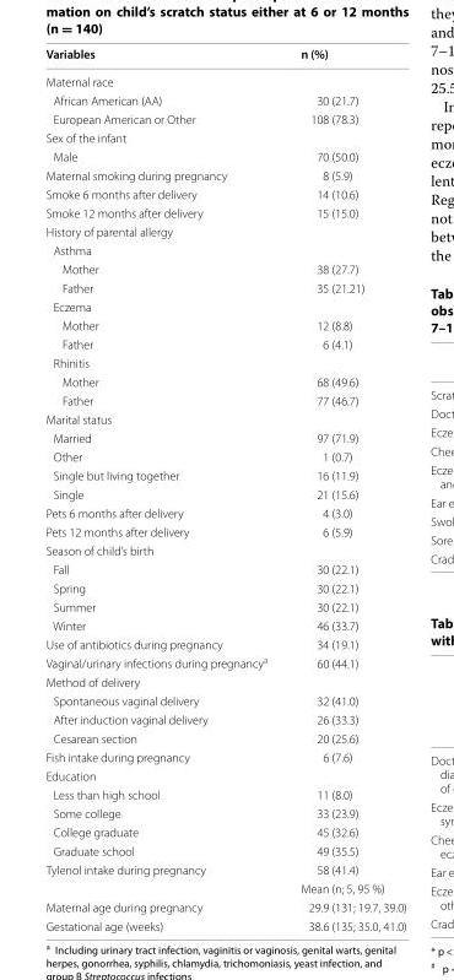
<table><thead><tr><td>Variables</td><td>n (%)</td></tr></thead><tbody><tr><td colspan="2">Maternal race</td></tr><tr><td>African American (AA)</td><td>30 (21.7)</td></tr><tr><td>European American or Other</td><td>108 (78.3)</td></tr><tr><td colspan="2">Sex of the infant</td></tr><tr><td>Male</td><td>70 (50.0)</td></tr><tr><td>Maternal smoking during pregnancy</td><td>8 (5.9)</td></tr><tr><td>Smoke 6 months after delivery</td><td>14 (10.6)</td></tr><tr><td>Smoke 12 months after delivery</td><td>15 (15.0)</td></tr><tr><td colspan="2">History of parental allergy</td></tr><tr><td colspan="2">Asthma</td></tr><tr><td>Mother</td><td>38 (27.7)</td></tr><tr><td>Father</td><td>35 (21.21)</td></tr><tr><td colspan="2">Eczema</td></tr><tr><td>Mother</td><td>12 (8.8)</td></tr><tr><td>Father</td><td>6 (4.1)</td></tr><tr><td colspan="2">Rhinitis</td></tr><tr><td>Mother</td><td>68 (49.6)</td></tr><tr><td>Father</td><td>77 (46.7)</td></tr><tr><td colspan="2">Marital status</td></tr><tr><td>Married</td><td>97 (71.9)</td></tr><tr><td>Other</td><td>1 (0.7)</td></tr><tr><td>Single but living together</td><td>16 (11.9)</td></tr><tr><td>Single</td><td>21 (15.6)</td></tr><tr><td>Pets 6 months after delivery</td><td>4 (3.0)</td></tr><tr><td>Pets 12 months after delivery</td><td>6 (5.9)</td></tr><tr><td colspan="2">Season of child’s birth</td></tr><tr><td>Fall</td><td>30 (22.1)</td></tr><tr><td>Spring</td><td>30 (22.1)</td></tr><tr><td>Summer</td><td>30 (22.1)</td></tr><tr><td>Winter</td><td>46 (33.7)</td></tr><tr><td>Use of antibiotics during pregnancy</td><td>34 (19.1)</td></tr><tr><td>Vaginal/urinary infections during pregnancy<sup>a</sup></td><td>60 (44.1)</td></tr><tr><td colspan="2">Method of delivery</td></tr><tr><td>Spontaneous vaginal delivery</td><td>32 (41.0)</td></tr><tr><td>After induction vaginal delivery</td><td>26 (33.3)</td></tr><tr><td>Cesarean section</td><td>20 (25.6)</td></tr><tr><td>Fish intake during pregnancy</td><td>6 (7.6)</td></tr><tr><td colspan="2">Education</td></tr><tr><td>Less than high school</td><td>11 (8.0)</td></tr><tr><td>Some college</td><td>33 (23.9)</td></tr><tr><td>College graduate</td><td>45 (32.6)</td></tr><tr><td>Graduate school</td><td>49 (35.5)</td></tr><tr><td rowspan="2">Tylenol intake during pregnancy</td><td>58 (41.4)</td></tr><tr><td>Mean (n; 5, 95 %)</td></tr><tr><td>Maternal age during pregnancy</td><td>29.9 (131; 19.7, 39.0)</td></tr><tr><td>Gestational age (weeks)</td><td>38.6 (135; 35.0, 41.0)</td></tr></tbody></table>